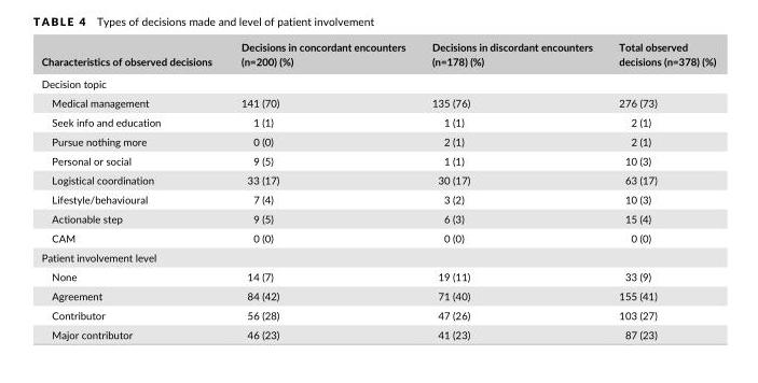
<table><thead><tr><td>Characteristics of observed decisions</td><td>Decisions in concordant encounters (n=200) (%)</td><td>Decisions in discordant encounters (n=178) (%)</td><td>Total observed decisions (n=378) (%)</td></tr></thead><tbody><tr><td colspan="4">Decision topic</td></tr><tr><td>Medical management</td><td>141 (70)</td><td>135 (76)</td><td>276 (73)</td></tr><tr><td>Seek info and education</td><td>1 (1)</td><td>1 (1)</td><td>2 (1)</td></tr><tr><td>Pursue nothing more</td><td>0 (0)</td><td>2 (1)</td><td>2 (1)</td></tr><tr><td>Personal or social</td><td>9 (5)</td><td>1 (1)</td><td>10 (3)</td></tr><tr><td>Logistical coordination</td><td>33 (17)</td><td>30 (17)</td><td>63 (17)</td></tr><tr><td>Lifestyle/behavioural</td><td>7 (4)</td><td>3 (2)</td><td>10 (3)</td></tr><tr><td>Actionable step</td><td>9 (5)</td><td>6 (3)</td><td>15 (4)</td></tr><tr><td>CAM</td><td>0 (0)</td><td>0 (0)</td><td>0 (0)</td></tr><tr><td colspan="4">Patient involvement level</td></tr><tr><td>None</td><td>14 (7)</td><td>19 (11)</td><td>33 (9)</td></tr><tr><td>Agreement</td><td>84 (42)</td><td>71 (40)</td><td>155 (41)</td></tr><tr><td>Contributor</td><td>56 (28)</td><td>47 (26)</td><td>103 (27)</td></tr><tr><td>Major contributor</td><td>46 (23)</td><td>41 (23)</td><td>87 (23)</td></tr></tbody></table>